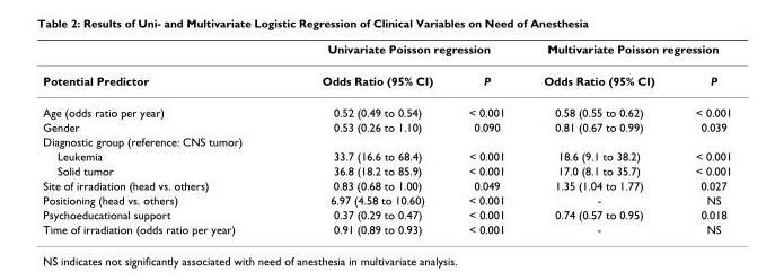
<table><thead><tr><td rowspan="2">Potential Predictor</td><td colspan="2">Univariate Poisson regression</td><td colspan="2">Multivariate Poisson regression</td></tr><tr><td>Odds Ratio (95% CI)</td><td>P</td><td>Odds Ratio (95% CI)</td><td>P</td></tr></thead><tbody><tr><td>Age (odds ratio per year)</td><td>0.52 (0.49 to 0.54)</td><td>&lt; 0.001</td><td>0.58 (0.55 to 0.62)</td><td>&lt; 0.001</td></tr><tr><td>Gender</td><td>0.53 (0.26 to 1.10)</td><td>0.090</td><td>0.81 (0.67 to 0.99)</td><td>0.039</td></tr><tr><td colspan="5">Diagnostic group (reference: CNS tumor)</td></tr><tr><td>Leukemia</td><td>33.7 (16.6 to 68.4)</td><td>&lt; 0.001</td><td>18.6 (9.1 to 38.2)</td><td>&lt; 0.001</td></tr><tr><td>Solid tumor</td><td>36.8 (18.2 to 85.9)</td><td>&lt; 0.001</td><td>17.0 (8.1 to 35.7)</td><td>&lt; 0.001</td></tr><tr><td>Site of irradiation (head vs. others)</td><td>0.83 (0.68 to 1.00)</td><td>0.049</td><td>1.35 (1.04 to 1.77)</td><td>0.027</td></tr><tr><td>Positioning (head vs. others)</td><td>6.97 (4.58 to 10.60)</td><td>&lt; 0.001</td><td>-</td><td>NS</td></tr><tr><td>Psychoeducational support</td><td>0.37 (0.29 to 0.47)</td><td>&lt; 0.001</td><td>0.74 (0.57 to 0.95)</td><td>0.018</td></tr><tr><td>Time of irradiation (odds ratio per year)</td><td>0.91 (0.89 to 0.93)</td><td>&lt; 0.001</td><td>-</td><td>NS</td></tr></tbody></table>